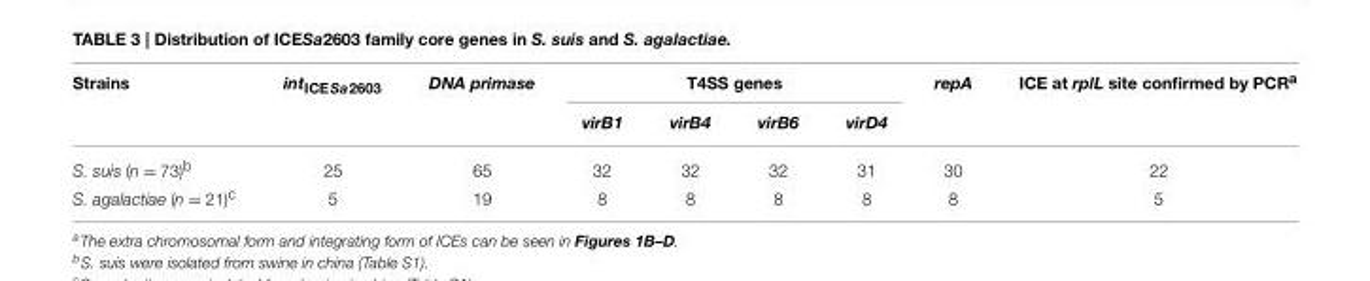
<table><thead><tr><td rowspan="2">Strains</td><td rowspan="2">intICESa2603</td><td rowspan="2">DNA primase</td><td colspan="4">T4SS genes</td><td rowspan="2">repA</td><td rowspan="2">ICE at rplL site confirmed by PCR<sup>a</sup></td></tr><tr><td>virB1</td><td>virB4</td><td>virB6</td><td>virD4</td></tr></thead><tbody><tr><td>S. suis (n = 73)<sup>b</sup></td><td>25</td><td>65</td><td>32</td><td>32</td><td>32</td><td>31</td><td>30</td><td>22</td></tr><tr><td>S. agalactiae (n = 21)<sup>c</sup></td><td>5</td><td>19</td><td>8</td><td>8</td><td>8</td><td>8</td><td>8</td><td>5</td></tr></tbody></table>